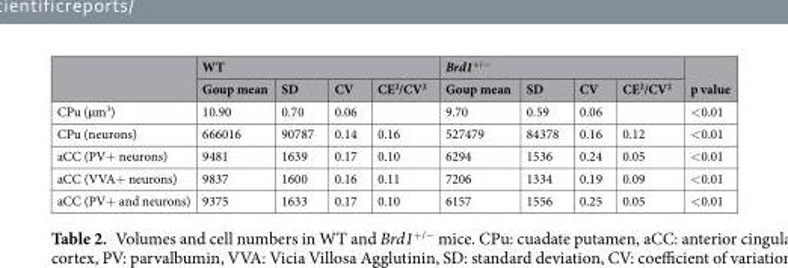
<table><thead><tr><td rowspan="2"></td><td colspan="4">WT</td><td colspan="4">Brd1<sup>+/−</sup></td><td rowspan="2">p value</td></tr><tr><td>Goup mean</td><td>SD</td><td>CV</td><td>CE<sup>2</sup>/CV<sup>2</sup></td><td>Goup mean</td><td>SD</td><td>CV</td><td>CE<sup>2</sup>/CV<sup>2</sup></td></tr></thead><tbody><tr><td>CPu (µm<sup>3</sup>)</td><td>10.90</td><td>0.70</td><td>0.06</td><td></td><td>9.70</td><td>0.59</td><td>0.06</td><td></td><td>&lt;0.01</td></tr><tr><td>CPu (neurons)</td><td>666016</td><td>90787</td><td>0.14</td><td>0.16</td><td>527479</td><td>84378</td><td>0.16</td><td>0.12</td><td>&lt;0.01</td></tr><tr><td>aCC (PV+ neurons)</td><td>9481</td><td>1639</td><td>0.17</td><td>0.10</td><td>6294</td><td>1536</td><td>0.24</td><td>0.05</td><td>&lt;0.01</td></tr><tr><td>aCC (VVA+ neurons)</td><td>9837</td><td>1600</td><td>0.16</td><td>0.11</td><td>7206</td><td>1334</td><td>0.19</td><td>0.09</td><td>&lt;0.01</td></tr><tr><td>aCC (PV+ and neurons)</td><td>9375</td><td>1633</td><td>0.17</td><td>0.10</td><td>6157</td><td>1556</td><td>0.25</td><td>0.05</td><td>&lt;0.01</td></tr></tbody></table>